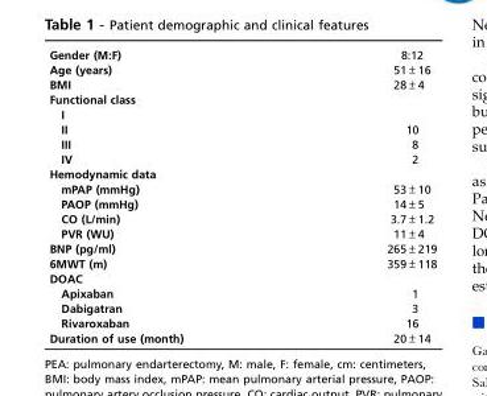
<table><tbody><tr><td>Gender (M:F)</td><td>8:12</td></tr><tr><td>Age (years)</td><td>51±16</td></tr><tr><td>BMI</td><td>28±4</td></tr><tr><td colspan="2">Functional class</td></tr><tr><td colspan="2">I</td></tr><tr><td>II</td><td>10</td></tr><tr><td>III</td><td>8</td></tr><tr><td>IV</td><td>2</td></tr><tr><td colspan="2">Hemodynamic data</td></tr><tr><td>mPAP (mmHg)</td><td>53±10</td></tr><tr><td>PAOP (mmHg)</td><td>14±5</td></tr><tr><td>CO (L/min)</td><td>3.7±1.2</td></tr><tr><td>PVR (WU)</td><td>11±4</td></tr><tr><td>BNP (pg/ml)</td><td>265±219</td></tr><tr><td>6MWT (m)</td><td>359±118</td></tr><tr><td colspan="2">DOAC</td></tr><tr><td>Apixaban</td><td>1</td></tr><tr><td>Dabigatran</td><td>3</td></tr><tr><td>Rivaroxaban</td><td>16</td></tr><tr><td>Duration of use (month)</td><td>20±14</td></tr></tbody></table>